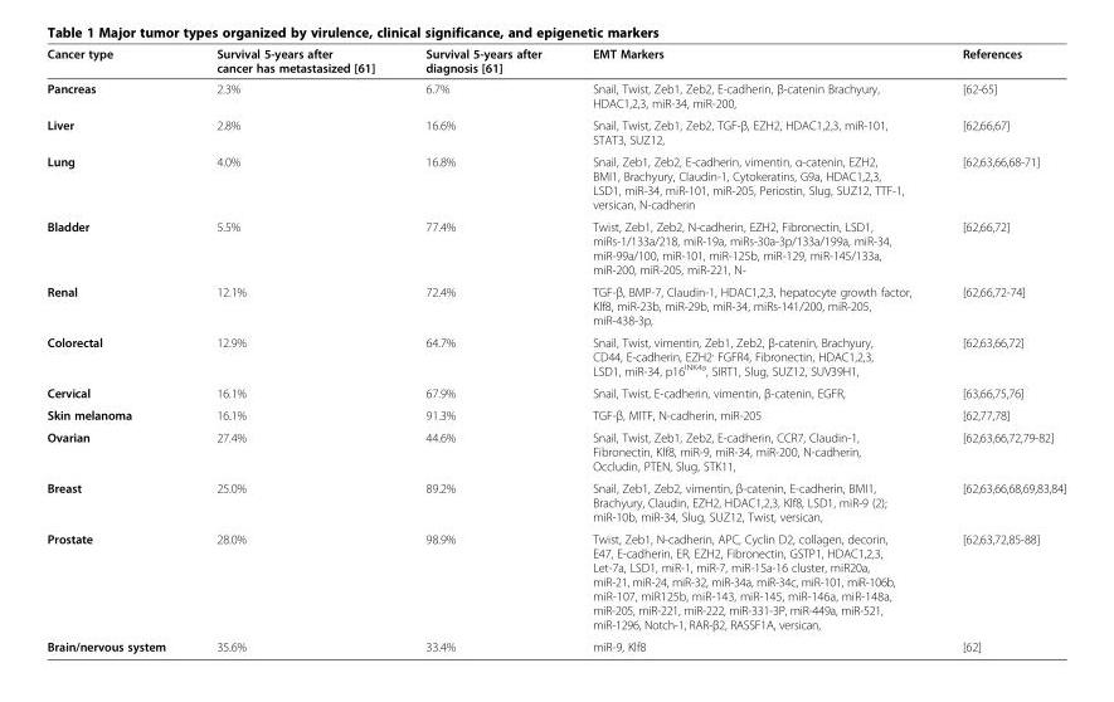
<table><thead><tr><td>Cancer type</td><td>Survival 5-years after cancer has metastasized [61]</td><td>Survival 5-years after diagnosis [61]</td><td>EMT Markers</td><td>References</td></tr></thead><tbody><tr><td>Pancreas</td><td>2.3%</td><td>6.7%</td><td>Snail, Twist, Zeb1, Zeb2, E-cadherin, β-catenin Brachyury, HDAC1,2,3, miR-34, miR-200,</td><td>[62-65]</td></tr><tr><td>Liver</td><td>2.8%</td><td>16.6%</td><td>Snail, Twist, Zeb1, Zeb2, TGF-β, EZH2, HDAC1,2,3, miR-101, STAT3, SUZ12,</td><td>[62,66,67]</td></tr><tr><td>Lung</td><td>4.0%</td><td>16.8%</td><td>Snail, Zeb1, Zeb2, E-cadherin, vimentin, α-catenin, EZH2, BMI1, Brachyury, Claudin-1, Cytokeratins, G9a, HDAC1,2,3, LSD1, miR-34, miR-101, miR-205, Periostin, Slug, SUZ12, TTF-1, versican, N-cadherin</td><td>[62,63,66,68-71]</td></tr><tr><td>Bladder</td><td>5.5%</td><td>77.4%</td><td>Twist, Zeb1, Zeb2, N-cadherin, EZH2, Fibronectin, LSD1, miRs-1/133a/218, miR-19a, miRs-30a-3p/133a/199a, miR-34, miR-99a/100, miR-101, miR-125b, miR-129, miR-145/133a, miR-200, miR-205, miR-221, N-</td><td>[62,66,72]</td></tr><tr><td>Renal</td><td>12.1%</td><td>72.4%</td><td>TGF-β, BMP-7, Claudin-1, HDAC1,2,3, hepatocyte growth factor, Klf8, miR-23b, miR-29b, miR-34, miRs-141/200, miR-205, miR-438-3p,</td><td>[62,66,72-74]</td></tr><tr><td>Colorectal</td><td>12.9%</td><td>64.7%</td><td>Snail, Twist, vimentin, Zeb1, Zeb2, β-catenin, Brachyury, CD44, E-cadherin, EZH2<sup>,</sup> FGFR4, Fibronectin, HDAC1,2,3, LSD1, miR-34, p16<sup>INK4a</sup>, SIRT1, Slug, SUZ12, SUV39H1,</td><td>[62,63,66,72]</td></tr><tr><td>Cervical</td><td>16.1%</td><td>67.9%</td><td>Snail, Twist, E-cadherin, vimentin, β-catenin, EGFR,</td><td>[63,66,75,76]</td></tr><tr><td>Skin melanoma</td><td>16.1%</td><td>91.3%</td><td>TGF-β, MITF, N-cadherin, miR-205</td><td>[62,77,78]</td></tr><tr><td>Ovarian</td><td>27.4%</td><td>44.6%</td><td>Snail, Twist, Zeb1, Zeb2, E-cadherin, CCR7, Claudin-1, Fibronectin, Klf8, miR-9, miR-34, miR-200, N-cadherin, Occludin, PTEN, Slug, STK11,</td><td>[62,63,66,72,79-82]</td></tr><tr><td>Breast</td><td>25.0%</td><td>89.2%</td><td>Snail, Zeb1, Zeb2, vimentin, β-catenin, E-cadherin, BMI1, Brachyury, Claudin, EZH2, HDAC1,2,3, Klf8, LSD1, miR-9 (2); miR-10b, miR-34, Slug, SUZ12, Twist, versican,</td><td>[62,63,66,68,69,83,84]</td></tr><tr><td>Prostate</td><td>28.0%</td><td>98.9%</td><td>Twist, Zeb1, N-cadherin, APC, Cyclin D2, collagen, decorin, E47, E-cadherin, ER, EZH2, Fibronectin, GSTP1, HDAC1,2,3, Let-7a, LSD1, miR-1, miR-7, miR-15a-16 cluster, miR20a, miR-21, miR-24, miR-32, miR-34a, miR-34c, miR-101, miR-106b, miR-107, miR125b, miR-143, miR-145, miR-146a, miR-148a, miR-205, miR-221, miR-222, miR-331-3P, miR-449a, miR-521, miR-1296, Notch-1, RAR-β2, RASSF1A, versican,</td><td>[62,63,72,85-88]</td></tr><tr><td>Brain/nervous system</td><td>35.6%</td><td>33.4%</td><td>miR-9, Klf8</td><td>[62]</td></tr></tbody></table>